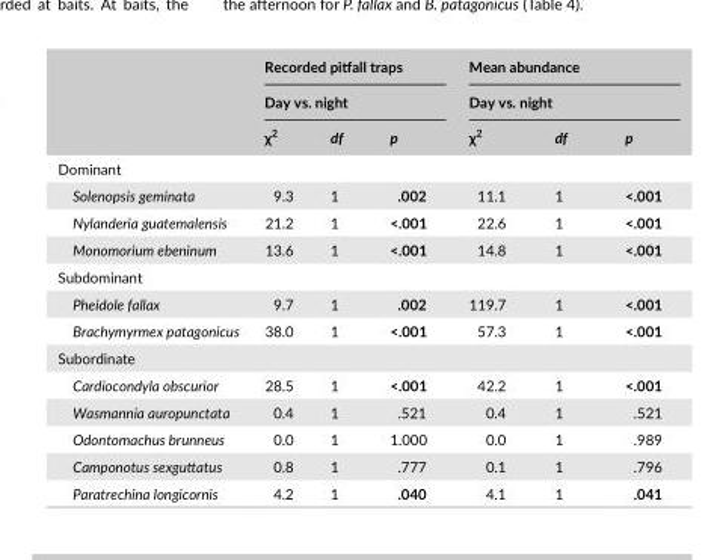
<table><thead><tr><td rowspan="3"></td><td rowspan="2" colspan="3">Recorded pitfall traps Day vs. night</td><td rowspan="2" colspan="3">Mean abundance Day vs. night</td></tr><tr></tr><tr><td>χ<sup>2</sup></td><td>df</td><td>p</td><td>χ<sup>2</sup></td><td>df</td><td>p</td></tr></thead><tbody><tr><td colspan="7">Dominant</td></tr><tr><td>Solenopsis geminata</td><td>9.3</td><td>1</td><td>.002</td><td>11.1</td><td>1</td><td>&lt;.001</td></tr><tr><td>Nylanderia guatemalensis</td><td>21.2</td><td>1</td><td>&lt;.001</td><td>22.6</td><td>1</td><td>&lt;.001</td></tr><tr><td>Monomorium ebeninum</td><td>13.6</td><td>1</td><td>&lt;.001</td><td>14.8</td><td>1</td><td>&lt;.001</td></tr><tr><td colspan="7">Subdominant</td></tr><tr><td>Pheidole fallax</td><td>9.7</td><td>1</td><td>.002</td><td>119.7</td><td>1</td><td>&lt;.001</td></tr><tr><td>Brachymyrmex patagonicus</td><td>38.0</td><td>1</td><td>&lt;.001</td><td>57.3</td><td>1</td><td>&lt;.001</td></tr><tr><td colspan="7">Subordinate</td></tr><tr><td>Cardiocondyla obscurior</td><td>28.5</td><td>1</td><td>&lt;.001</td><td>42.2</td><td>1</td><td>&lt;.001</td></tr><tr><td>Wasmannia auropunctata</td><td>0.4</td><td>1</td><td>.521</td><td>0.4</td><td>1</td><td>.521</td></tr><tr><td>Odontomachus brunneus</td><td>0.0</td><td>1</td><td>1.000</td><td>0.0</td><td>1</td><td>.989</td></tr><tr><td>Camponotus sexguttatus</td><td>0.8</td><td>1</td><td>.777</td><td>0.1</td><td>1</td><td>.796</td></tr><tr><td>Paratrechina longicornis</td><td>4.2</td><td>1</td><td>.040</td><td>4.1</td><td>1</td><td>.041</td></tr></tbody></table>